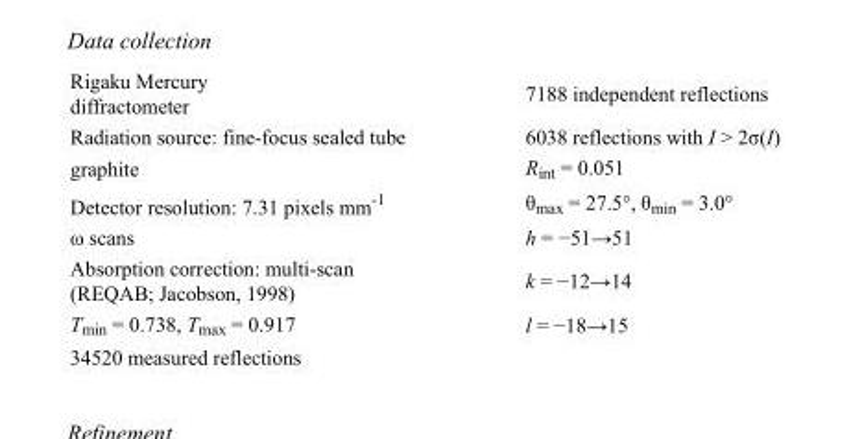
<table><tbody><tr><td>Rigaku Mercury diffractometer</td><td>7188 independent reflections</td></tr><tr><td>Radiation source: fine-focus sealed tube</td><td>6038 reflections with I &gt; 2σ(I)</td></tr><tr><td>graphite</td><td>R<sub>int</sub> = 0.051</td></tr><tr><td>Detector resolution: 7.31 pixels mm<sup>-1</sup></td><td>θ<sub>max</sub> = 27.5°, θ<sub>min</sub> = 3.0°</td></tr><tr><td>ω scans</td><td>h = −51→51</td></tr><tr><td>Absorption correction: multi-scan (REQAB; Jacobson, 1998)</td><td>k = −12→14</td></tr><tr><td>T<sub>min</sub> = 0.738, T<sub>max</sub> = 0.917</td><td>l = −18→15</td></tr><tr><td>34520 measured reflections</td><td></td></tr></tbody></table>